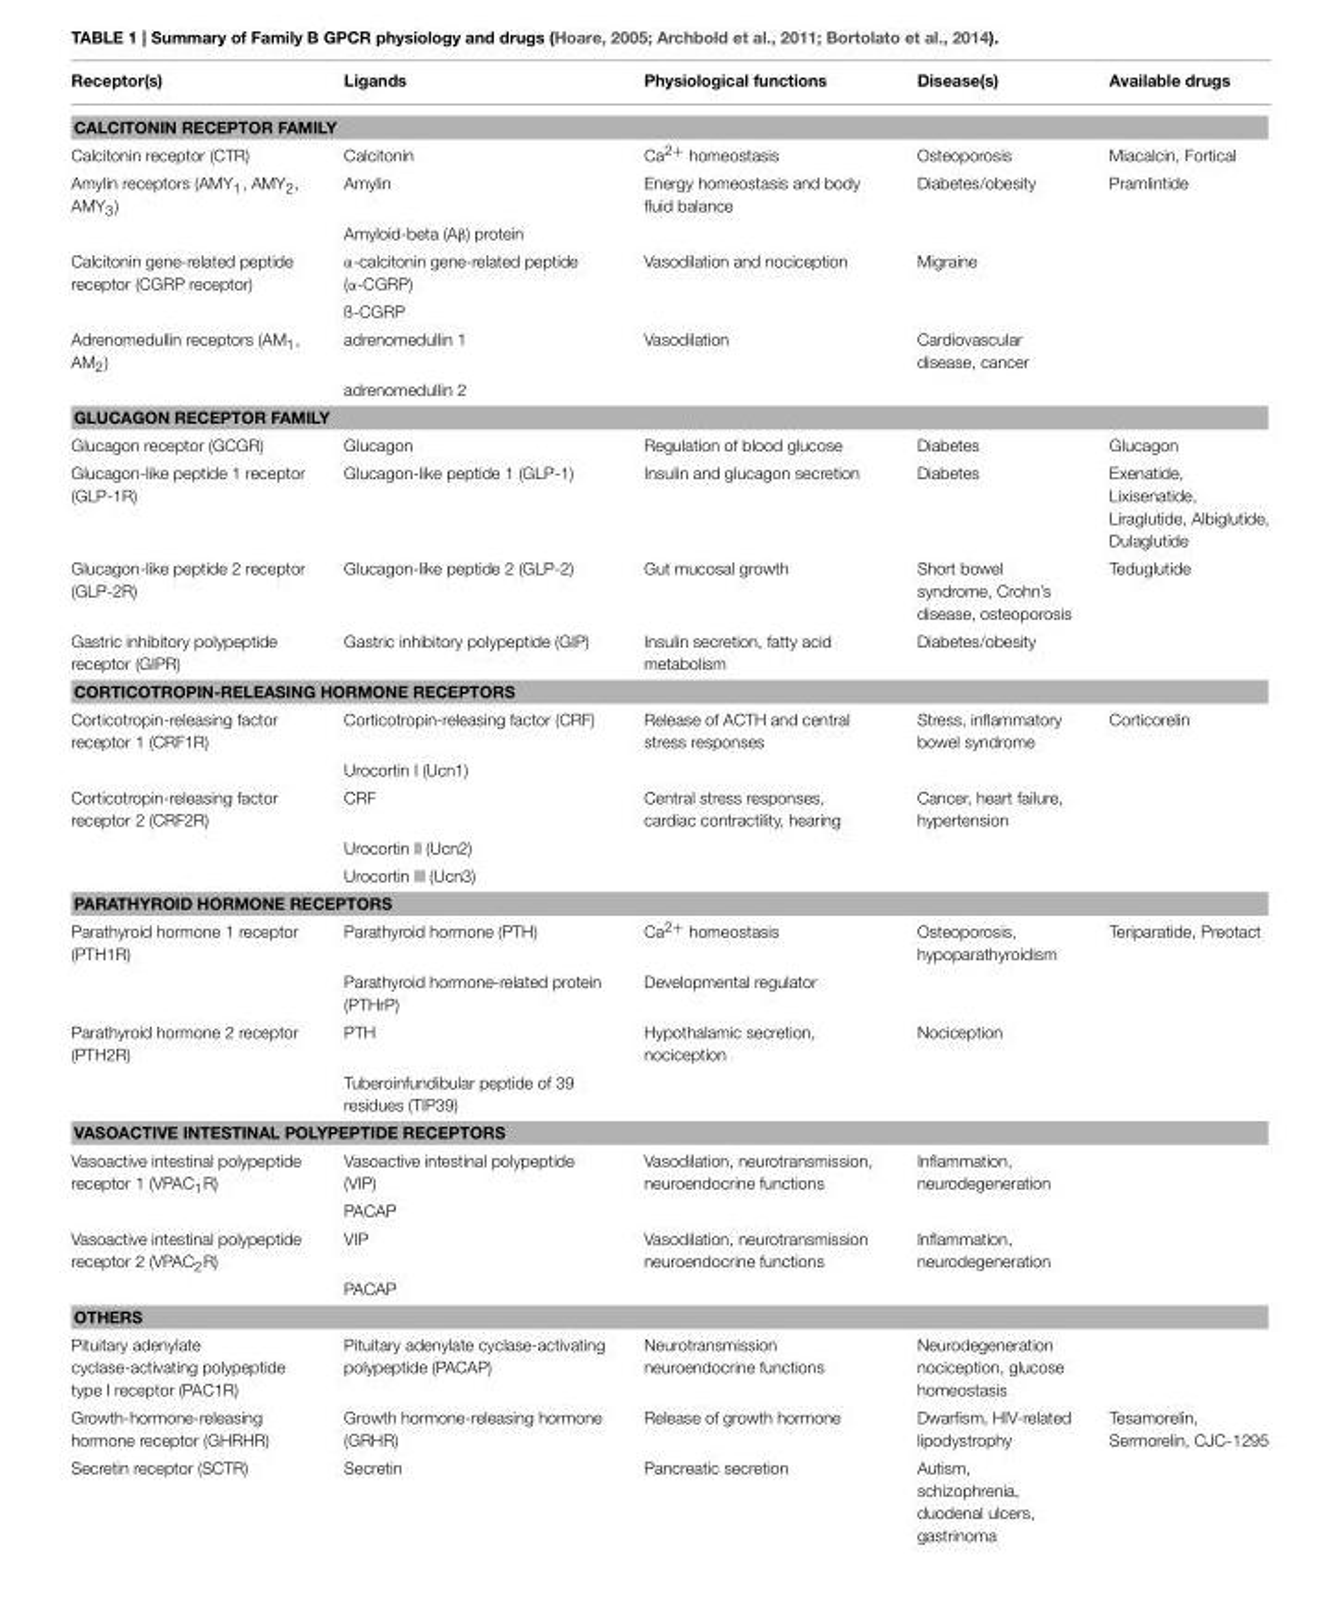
<table><thead><tr><td>Receptor(s)</td><td>Ligands</td><td>Physiological functions</td><td>Disease(s)</td><td>Available drugs</td></tr></thead><tbody><tr><td colspan="5">CALCITONIN RECEPTOR FAMILY</td></tr><tr><td>Calcitonin receptor (CTR)</td><td>Calcitonin</td><td>Ca<sup>2+</sup> homeostasis</td><td>Osteoporosis</td><td>Miacalcin, Fortical</td></tr><tr><td rowspan="2">Amylin receptors (AMY<sub>1</sub>, AMY<sub>2</sub>, AMY<sub>3</sub>)</td><td>Amylin</td><td>Energy homeostasis and body fluid balance</td><td>Diabetes/obesity</td><td>Pramlintide</td></tr><tr><td>Amyloid-beta (Aβ) protein</td><td></td><td></td><td></td></tr><tr><td rowspan="2">Calcitonin gene-related peptide receptor (CGRP receptor)</td><td>α-calcitonin gene-related peptide (α-CGRP)</td><td>Vasodilation and nociception</td><td>Migraine</td><td></td></tr><tr><td>ß-CGRP</td><td></td><td></td><td></td></tr><tr><td rowspan="2">Adrenomedullin receptors (AM<sub>1</sub>, AM<sub>2</sub>)</td><td>adrenomedullin 1</td><td>Vasodilation</td><td>Cardiovascular disease, cancer</td><td></td></tr><tr><td>adrenomedullin 2</td><td></td><td></td><td></td></tr><tr><td colspan="5">GLUCAGON RECEPTOR FAMILY</td></tr><tr><td>Glucagon receptor (GCGR)</td><td>Glucagon</td><td>Regulation of blood glucose</td><td>Diabetes</td><td>Glucagon</td></tr><tr><td>Glucagon-like peptide 1 receptor (GLP-1R)</td><td>Glucagon-like peptide 1 (GLP-1)</td><td>Insulin and glucagon secretion</td><td>Diabetes</td><td>Exenatide, Lixisenatide, Liraglutide, Albiglutide, Dulaglutide</td></tr><tr><td>Glucagon-like peptide 2 receptor (GLP-2R)</td><td>Glucagon-like peptide 2 (GLP-2)</td><td>Gut mucosal growth</td><td>Short bowel syndrome, Crohn’s disease, osteoporosis</td><td>Teduglutide</td></tr><tr><td>Gastric inhibitory polypeptide receptor (GIPR)</td><td>Gastric inhibitory polypeptide (GIP)</td><td>Insulin secretion, fatty acid metabolism</td><td>Diabetes/obesity</td><td></td></tr><tr><td colspan="5">CORTICOTROPIN-RELEASING HORMONE RECEPTORS</td></tr><tr><td rowspan="2">Corticotropin-releasing factor receptor 1 (CRF1R)</td><td>Corticotropin-releasing factor (CRF)</td><td>Release of ACTH and central stress responses</td><td>Stress, inflammatory bowel syndrome</td><td>Corticorelin</td></tr><tr><td>Urocortin I (Ucn1)</td><td></td><td></td><td></td></tr><tr><td rowspan="3">Corticotropin-releasing factor receptor 2 (CRF2R)</td><td>CRF</td><td>Central stress responses, cardiac contractility, hearing</td><td>Cancer, heart failure, hypertension</td><td></td></tr><tr><td>Urocortin II (Ucn2)</td><td></td><td></td><td></td></tr><tr><td>Urocortin III (Ucn3)</td><td></td><td></td><td></td></tr><tr><td colspan="5">PARATHYROID HORMONE RECEPTORS</td></tr><tr><td rowspan="2">Parathyroid hormone 1 receptor (PTH1R)</td><td>Parathyroid hormone (PTH)</td><td>Ca<sup>2+</sup> homeostasis</td><td>Osteoporosis, hypoparathyroidism</td><td>Teriparatide, Preotact</td></tr><tr><td>Parathyroid hormone-related protein (PTHrP)</td><td>Developmental regulator</td><td></td><td></td></tr><tr><td rowspan="2">Parathyroid hormone 2 receptor (PTH2R)</td><td>PTH</td><td>Hypothalamic secretion, nociception</td><td>Nociception</td><td></td></tr><tr><td>Tuberoinfundibular peptide of 39 residues (TIP39)</td><td></td><td></td><td></td></tr><tr><td colspan="5">VASOACTIVE INTESTINAL POLYPEPTIDE RECEPTORS</td></tr><tr><td rowspan="2">Vasoactive intestinal polypeptide receptor 1 (VPAC<sub>1</sub>R)</td><td>Vasoactive intestinal polypeptide (VIP)</td><td>Vasodilation, neurotransmission, neuroendocrine functions</td><td>Inflammation, neurodegeneration</td><td></td></tr><tr><td>PACAP</td><td></td><td></td><td></td></tr><tr><td rowspan="2">Vasoactive intestinal polypeptide receptor 2 (VPAC<sub>2</sub>R)</td><td>VIP</td><td>Vasodilation, neurotransmission neuroendocrine functions</td><td>Inflammation, neurodegeneration</td><td></td></tr><tr><td>PACAP</td><td></td><td></td><td></td></tr><tr><td colspan="5">OTHERS</td></tr><tr><td>Pituitary adenylate cyclase-activating polypeptide type I receptor (PAC1R)</td><td>Pituitary adenylate cyclase-activating polypeptide (PACAP)</td><td>Neurotransmission neuroendocrine functions</td><td>Neurodegeneration nociception, glucose homeostasis</td><td></td></tr><tr><td>Growth-hormone-releasing hormone receptor (GHRHR)</td><td>Growth hormone-releasing hormone (GRHR)</td><td>Release of growth hormone</td><td>Dwarfism, HIV-related lipodystrophy</td><td>Tesamorelin, Sermorelin, CJC-1295</td></tr><tr><td>Secretin receptor (SCTR)</td><td>Secretin</td><td>Pancreatic secretion</td><td>Autism, schizophrenia, duodenal ulcers, gastrinoma</td><td></td></tr></tbody></table>